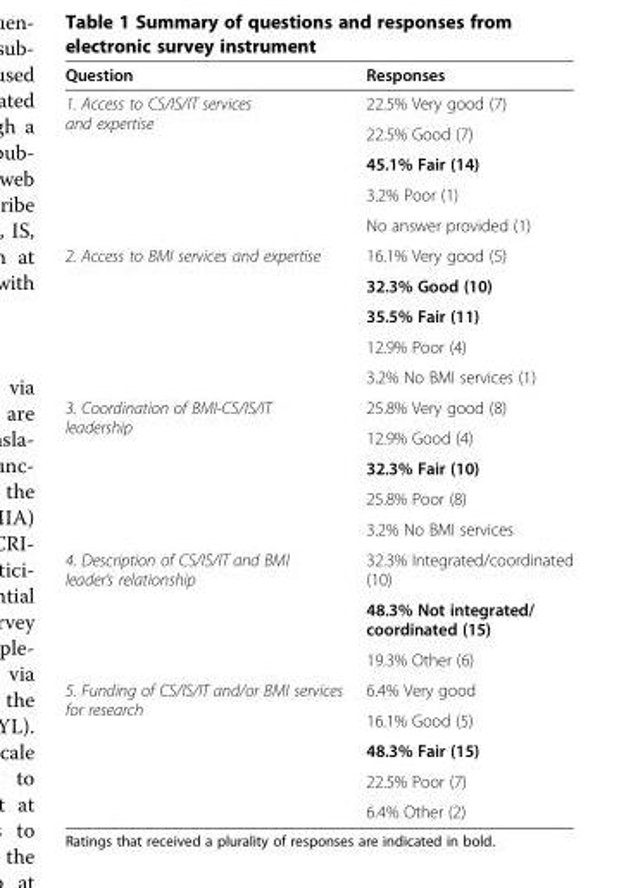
<table><thead><tr><td>Question</td><td>Responses</td></tr></thead><tbody><tr><td rowspan="5">1. Access to CS/IS/IT services and expertise</td><td>22.5% Very good (7)</td></tr><tr><td>22.5% Good (7)</td></tr><tr><td>45.1% Fair (14)</td></tr><tr><td>3.2% Poor (1)</td></tr><tr><td>No answer provided (1)</td></tr><tr><td rowspan="5">2. Access to BMI services and expertise</td><td>16.1% Very good (5)</td></tr><tr><td>32.3% Good (10)</td></tr><tr><td>35.5% Fair (11)</td></tr><tr><td>12.9% Poor (4)</td></tr><tr><td>3.2% No BMI services (1)</td></tr><tr><td rowspan="5">3. Coordination of BMI-CS/IS/IT leadership</td><td>25.8% Very good (8)</td></tr><tr><td>12.9% Good (4)</td></tr><tr><td>32.3% Fair (10)</td></tr><tr><td>25.8% Poor (8)</td></tr><tr><td>3.2% No BMI services</td></tr><tr><td rowspan="3">4. Description of CS/IS/IT and BMI leader’s relationship</td><td>32.3% Integrated/coordinated (10)</td></tr><tr><td>48.3% Not integrated/ coordinated (15)</td></tr><tr><td>19.3% Other (6)</td></tr><tr><td rowspan="5">5. Funding of CS/IS/IT and/or BMI services for research</td><td>6.4% Very good</td></tr><tr><td>16.1% Good (5)</td></tr><tr><td>48.3% Fair (15)</td></tr><tr><td>22.5% Poor (7)</td></tr><tr><td>6.4% Other (2)</td></tr></tbody></table>